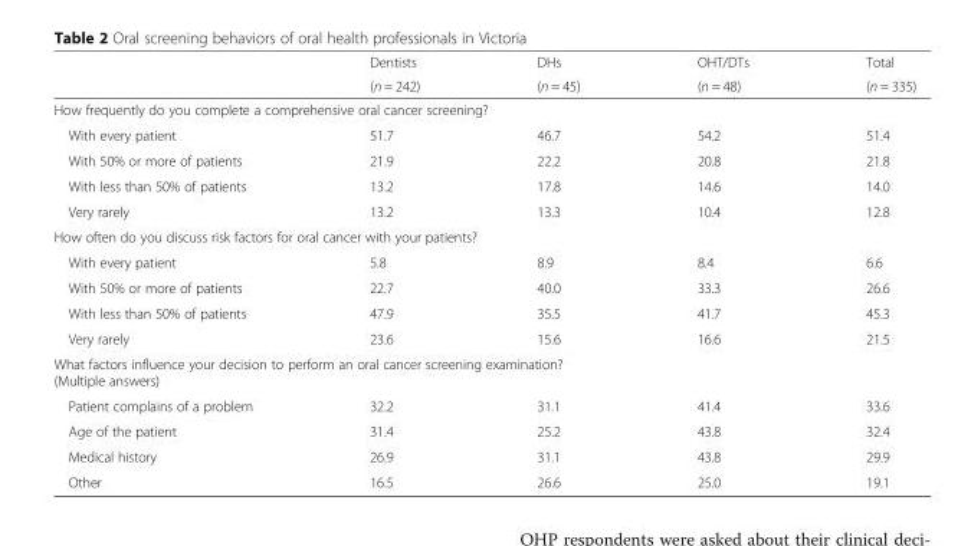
<table><thead><tr><td rowspan="2"></td><td rowspan="2">Dentists (n = 242)</td><td rowspan="2">DHs (n = 45)</td><td rowspan="2">OHT/DTs (n = 48)</td><td rowspan="2">Total (n = 335)</td></tr><tr></tr></thead><tbody><tr><td colspan="5">How frequently do you complete a comprehensive oral cancer screening?</td></tr><tr><td>With every patient</td><td>51.7</td><td>46.7</td><td>54.2</td><td>51.4</td></tr><tr><td>With 50% or more of patients</td><td>21.9</td><td>22.2</td><td>20.8</td><td>21.8</td></tr><tr><td>With less than 50% of patients</td><td>13.2</td><td>17.8</td><td>14.6</td><td>14.0</td></tr><tr><td>Very rarely</td><td>13.2</td><td>13.3</td><td>10.4</td><td>12.8</td></tr><tr><td colspan="5">How often do you discuss risk factors for oral cancer with your patients?</td></tr><tr><td>With every patient</td><td>5.8</td><td>8.9</td><td>8.4</td><td>6.6</td></tr><tr><td>With 50% or more of patients</td><td>22.7</td><td>40.0</td><td>33.3</td><td>26.6</td></tr><tr><td>With less than 50% of patients</td><td>47.9</td><td>35.5</td><td>41.7</td><td>45.3</td></tr><tr><td>Very rarely</td><td>23.6</td><td>15.6</td><td>16.6</td><td>21.5</td></tr><tr><td colspan="5">What factors influence your decision to perform an oral cancer screening examination? (Multiple answers)</td></tr><tr><td>Patient complains of a problem</td><td>32.2</td><td>31.1</td><td>41.4</td><td>33.6</td></tr><tr><td>Age of the patient</td><td>31.4</td><td>25.2</td><td>43.8</td><td>32.4</td></tr><tr><td>Medical history</td><td>26.9</td><td>31.1</td><td>43.8</td><td>29.9</td></tr><tr><td>Other</td><td>16.5</td><td>26.6</td><td>25.0</td><td>19.1</td></tr></tbody></table>